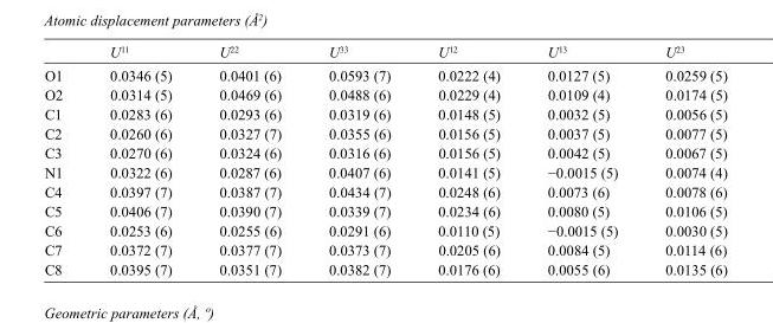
<table><thead><tr><td></td><td>U<sup>11</sup></td><td>U<sup>22</sup></td><td>U<sup>33</sup></td><td>U<sup>12</sup></td><td>U<sup>13</sup></td><td>U<sup>23</sup></td></tr></thead><tbody><tr><td>O1</td><td>0.0346 (5)</td><td>0.0401 (6)</td><td>0.0593 (7)</td><td>0.0222 (4)</td><td>0.0127 (5)</td><td>0.0259 (5)</td></tr><tr><td>O2</td><td>0.0314 (5)</td><td>0.0469 (6)</td><td>0.0488 (6)</td><td>0.0229 (4)</td><td>0.0109 (4)</td><td>0.0174 (5)</td></tr><tr><td>C1</td><td>0.0283 (6)</td><td>0.0293 (6)</td><td>0.0319 (6)</td><td>0.0148 (5)</td><td>0.0032 (5)</td><td>0.0056 (5)</td></tr><tr><td>C2</td><td>0.0260 (6)</td><td>0.0327 (7)</td><td>0.0355 (6)</td><td>0.0156 (5)</td><td>0.0037 (5)</td><td>0.0077 (5)</td></tr><tr><td>C3</td><td>0.0270 (6)</td><td>0.0324 (6)</td><td>0.0316 (6)</td><td>0.0156 (5)</td><td>0.0042 (5)</td><td>0.0067 (5)</td></tr><tr><td>N1</td><td>0.0322 (6)</td><td>0.0287 (6)</td><td>0.0407 (6)</td><td>0.0141 (5)</td><td>−0.0015 (5)</td><td>0.0074 (4)</td></tr><tr><td>C4</td><td>0.0397 (7)</td><td>0.0387 (7)</td><td>0.0434 (7)</td><td>0.0248 (6)</td><td>0.0073 (6)</td><td>0.0078 (6)</td></tr><tr><td>C5</td><td>0.0406 (7)</td><td>0.0390 (7)</td><td>0.0339 (7)</td><td>0.0234 (6)</td><td>0.0080 (5)</td><td>0.0106 (5)</td></tr><tr><td>C6</td><td>0.0253 (6)</td><td>0.0255 (6)</td><td>0.0291 (6)</td><td>0.0110 (5)</td><td>−0.0015 (5)</td><td>0.0030 (5)</td></tr><tr><td>C7</td><td>0.0372 (7)</td><td>0.0377 (7)</td><td>0.0373 (7)</td><td>0.0205 (6)</td><td>0.0084 (5)</td><td>0.0114 (6)</td></tr><tr><td>C8</td><td>0.0395 (7)</td><td>0.0351 (7)</td><td>0.0382 (7)</td><td>0.0176 (6)</td><td>0.0055 (6)</td><td>0.0135 (6)</td></tr></tbody></table>